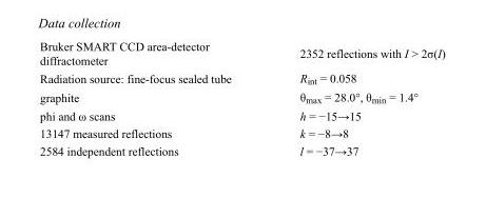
<table><tbody><tr><td>Bruker SMART CCD area-detector diffractometer</td><td>2352 reflections with I &gt; 2σ(I)</td></tr><tr><td>Radiation source: fine-focus sealed tube</td><td>R<sub>int</sub> = 0.058</td></tr><tr><td>graphite</td><td>θ<sub>max</sub> = 28.0°, θ<sub>min</sub> = 1.4°</td></tr><tr><td>phi and ω scans</td><td>h = −15→15</td></tr><tr><td>13147 measured reflections</td><td>k = −8→8</td></tr><tr><td>2584 independent reflections</td><td>l = −37→37</td></tr></tbody></table>